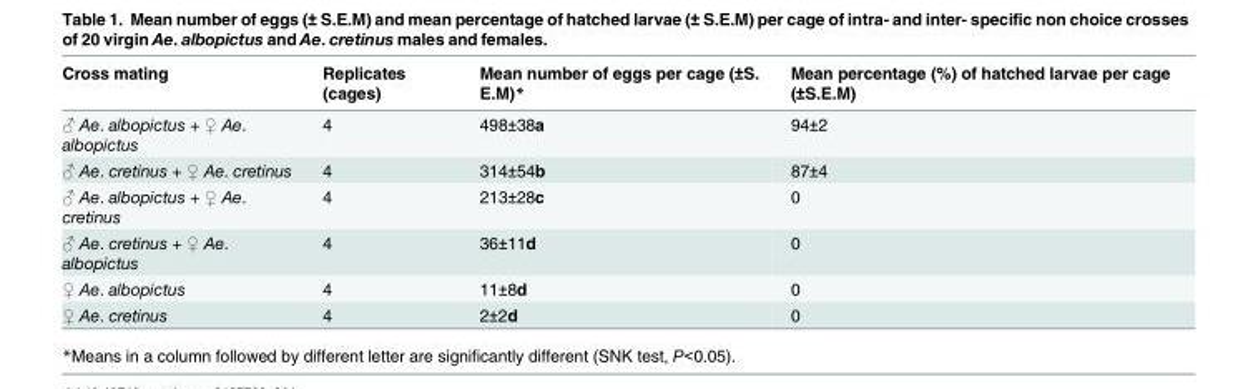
<table><thead><tr><td>Cross mating</td><td>Replicates (cages)</td><td>Mean number of eggs per cage (±S. E.M)*</td><td>Mean percentage (%) of hatched larvae per cage (±S.E.M)</td></tr></thead><tbody><tr><td>♂ Ae. albopictus + ♀ Ae. albopictus</td><td>4</td><td>498±38a</td><td>94±2</td></tr><tr><td>♂ Ae. cretinus + ♀ Ae. cretinus</td><td>4</td><td>314±54b</td><td>87±4</td></tr><tr><td>♂ Ae. albopictus + ♀ Ae. cretinus</td><td>4</td><td>213±28c</td><td>0</td></tr><tr><td>♂ Ae. cretinus + ♀ Ae. albopictus</td><td>4</td><td>36±11d</td><td>0</td></tr><tr><td>♀ Ae. albopictus</td><td>4</td><td>11±8d</td><td>0</td></tr><tr><td>♀ Ae. cretinus</td><td>4</td><td>2±2d</td><td>0</td></tr></tbody></table>